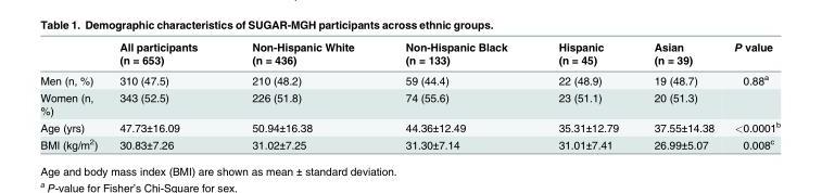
<table><thead><tr><td></td><td>All participants (n = 653)</td><td>Non-Hispanic White (n = 436)</td><td>Non-Hispanic Black (n = 133)</td><td>Hispanic (n = 45)</td><td>Asian (n = 39)</td><td>P value</td></tr></thead><tbody><tr><td>Men (n, %)</td><td>310 (47.5)</td><td>210 (48.2)</td><td>59 (44.4)</td><td>22 (48.9)</td><td>19 (48.7)</td><td>0.88<sup>a</sup></td></tr><tr><td>Women (n, %)</td><td>343 (52.5)</td><td>226 (51.8)</td><td>74 (55.6)</td><td>23 (51.1)</td><td>20 (51.3)</td><td></td></tr><tr><td>Age (yrs)</td><td>47.73±16.09</td><td>50.94±16.38</td><td>44.36±12.49</td><td>35.31±12.79</td><td>37.55±14.38</td><td>&lt;0.0001<sup>b</sup></td></tr><tr><td>BMI (kg/m<sup>2</sup>)</td><td>30.83±7.26</td><td>31.02±7.25</td><td>31.30±7.14</td><td>31.01±7.41</td><td>26.99±5.07</td><td>0.008<sup>c</sup></td></tr></tbody></table>